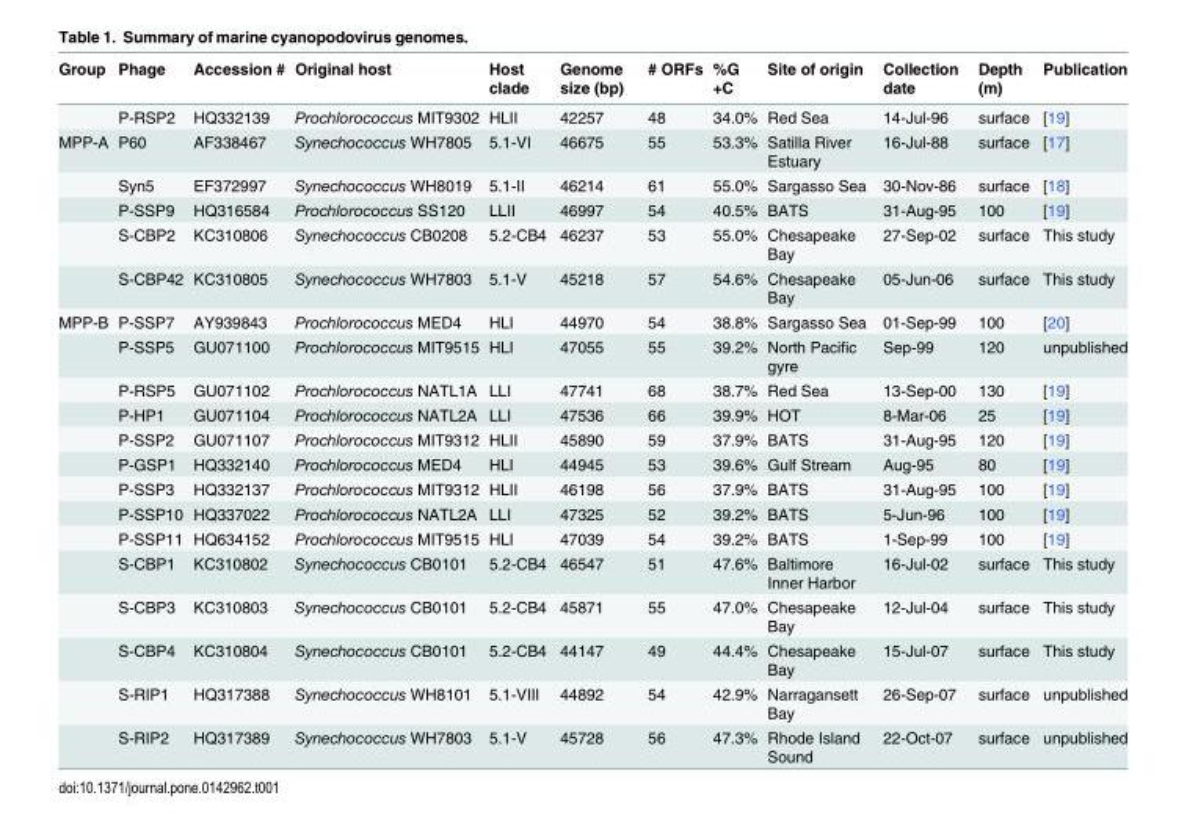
<table><thead><tr><td>Group</td><td>Phage</td><td>Accession #</td><td>Original host</td><td>Host clade</td><td>Genome size (bp)</td><td># ORFs</td><td>%G +C</td><td>Site of origin</td><td>Collection date</td><td>Depth (m)</td><td>Publication</td></tr></thead><tbody><tr><td></td><td>P-RSP2</td><td>HQ332139</td><td>Prochlorococcus MIT9302</td><td>HLII</td><td>42257</td><td>48</td><td>34.0%</td><td>Red Sea</td><td>14-Jul-96</td><td>surface</td><td>[19]</td></tr><tr><td rowspan="5">MPP-A</td><td>P60</td><td>AF338467</td><td>Synechococcus WH7805</td><td>5.1-VI</td><td>46675</td><td>55</td><td>53.3%</td><td>Satilla River Estuary</td><td>16-Jul-88</td><td>surface</td><td>[17]</td></tr><tr><td>Syn5</td><td>EF372997</td><td>Synechococcus WH8019</td><td>5.1-II</td><td>46214</td><td>61</td><td>55.0%</td><td>Sargasso Sea</td><td>30-Nov-86</td><td>surface</td><td>[18]</td></tr><tr><td>P-SSP9</td><td>HQ316584</td><td>Prochlorococcus SS120</td><td>LLII</td><td>46997</td><td>54</td><td>40.5%</td><td>BATS</td><td>31-Aug-95</td><td>100</td><td>[19]</td></tr><tr><td>S-CBP2</td><td>KC310806</td><td>Synechococcus CB0208</td><td>5.2-CB4</td><td>46237</td><td>53</td><td>55.0%</td><td>Chesapeake Bay</td><td>27-Sep-02</td><td>surface</td><td>This study</td></tr><tr><td>S-CBP42</td><td>KC310805</td><td>Synechococcus WH7803</td><td>5.1-V</td><td>45218</td><td>57</td><td>54.6%</td><td>Chesapeake Bay</td><td>05-Jun-06</td><td>surface</td><td>This study</td></tr><tr><td rowspan="14">MPP-B</td><td>P-SSP7</td><td>AY939843</td><td>Prochlorococcus MED4</td><td>HLI</td><td>44970</td><td>54</td><td>38.8%</td><td>Sargasso Sea</td><td>01-Sep-99</td><td>100</td><td>[20]</td></tr><tr><td>P-SSP5</td><td>GU071100</td><td>Prochlorococcus MIT9515</td><td>HLI</td><td>47055</td><td>55</td><td>39.2%</td><td>North Pacific gyre</td><td>Sep-99</td><td>120</td><td>unpublished</td></tr><tr><td>P-RSP5</td><td>GU071102</td><td>Prochlorococcus NATL1A</td><td>LLI</td><td>47741</td><td>68</td><td>38.7%</td><td>Red Sea</td><td>13-Sep-00</td><td>130</td><td>[19]</td></tr><tr><td>P-HP1</td><td>GU071104</td><td>Prochlorococcus NATL2A</td><td>LLI</td><td>47536</td><td>66</td><td>39.9%</td><td>HOT</td><td>8-Mar-06</td><td>25</td><td>[19]</td></tr><tr><td>P-SSP2</td><td>GU071107</td><td>Prochlorococcus MIT9312</td><td>HLII</td><td>45890</td><td>59</td><td>37.9%</td><td>BATS</td><td>31-Aug-95</td><td>120</td><td>[19]</td></tr><tr><td>P-GSP1</td><td>HQ332140</td><td>Prochlorococcus MED4</td><td>HLI</td><td>44945</td><td>53</td><td>39.6%</td><td>Gulf Stream</td><td>Aug-95</td><td>80</td><td>[19]</td></tr><tr><td>P-SSP3</td><td>HQ332137</td><td>Prochlorococcus MIT9312</td><td>HLII</td><td>46198</td><td>56</td><td>37.9%</td><td>BATS</td><td>31-Aug-95</td><td>100</td><td>[19]</td></tr><tr><td>P-SSP10</td><td>HQ337022</td><td>Prochlorococcus NATL2A</td><td>LLI</td><td>47325</td><td>52</td><td>39.2%</td><td>BATS</td><td>5-Jun-96</td><td>100</td><td>[19]</td></tr><tr><td>P-SSP11</td><td>HQ634152</td><td>Prochlorococcus MIT9515</td><td>HLI</td><td>47039</td><td>54</td><td>39.2%</td><td>BATS</td><td>1-Sep-99</td><td>100</td><td>[19]</td></tr><tr><td>S-CBP1</td><td>KC310802</td><td>Synechococcus CB0101</td><td>5.2-CB4</td><td>46547</td><td>51</td><td>47.6%</td><td>Baltimore Inner Harbor</td><td>16-Jul-02</td><td>surface</td><td>This study</td></tr><tr><td>S-CBP3</td><td>KC310803</td><td>Synechococcus CB0101</td><td>5.2-CB4</td><td>45871</td><td>55</td><td>47.0%</td><td>Chesapeake Bay</td><td>12-Jul-04</td><td>surface</td><td>This study</td></tr><tr><td>S-CBP4</td><td>KC310804</td><td>Synechococcus CB0101</td><td>5.2-CB4</td><td>44147</td><td>49</td><td>44.4%</td><td>Chesapeake Bay</td><td>15-Jul-07</td><td>surface</td><td>This study</td></tr><tr><td>S-RIP1</td><td>HQ317388</td><td>Synechococcus WH8101</td><td>5.1-VIII</td><td>44892</td><td>54</td><td>42.9%</td><td>Narragansett Bay</td><td>26-Sep-07</td><td>surface</td><td>unpublished</td></tr><tr><td>S-RIP2</td><td>HQ317389</td><td>Synechococcus WH7803</td><td>5.1-V</td><td>45728</td><td>56</td><td>47.3%</td><td>Rhode Island Sound</td><td>22-Oct-07</td><td>surface</td><td>unpublished</td></tr></tbody></table>